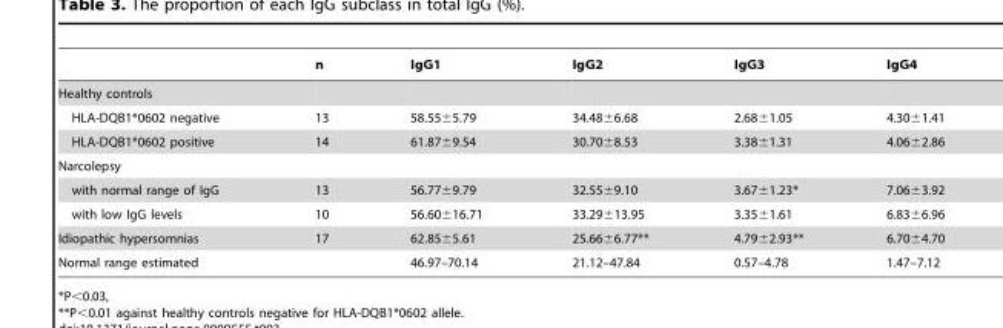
<table><thead><tr><td></td><td>n</td><td>IgG1</td><td>IgG2</td><td>IgG3</td><td>IgG4</td></tr></thead><tbody><tr><td colspan="6">Healthy controls</td></tr><tr><td>HLA-DQB1*0602 negative</td><td>13</td><td>58.55±5.79</td><td>34.48±6.68</td><td>2.68±1.05</td><td>4.30±1.41</td></tr><tr><td>HLA-DQB1*0602 positive</td><td>14</td><td>61.87±9.54</td><td>30.70±8.53</td><td>3.38±1.31</td><td>4.06±2.86</td></tr><tr><td colspan="6">Narcolepsy</td></tr><tr><td>with normal range of IgG</td><td>13</td><td>56.77±9.79</td><td>32.55±9.10</td><td>3.67±1.23*</td><td>7.06±3.92</td></tr><tr><td>with low IgG levels</td><td>10</td><td>56.60±16.71</td><td>33.29±13.95</td><td>3.35±1.61</td><td>6.83±6.96</td></tr><tr><td>Idiopathic hypersomnias</td><td>17</td><td>62.85±5.61</td><td>25.66±6.77**</td><td>4.79±2.93**</td><td>6.70±4.70</td></tr><tr><td>Normal range estimated</td><td></td><td>46.97–70.14</td><td>21.12–47.84</td><td>0.57–4.78</td><td>1.47–7.12</td></tr></tbody></table>